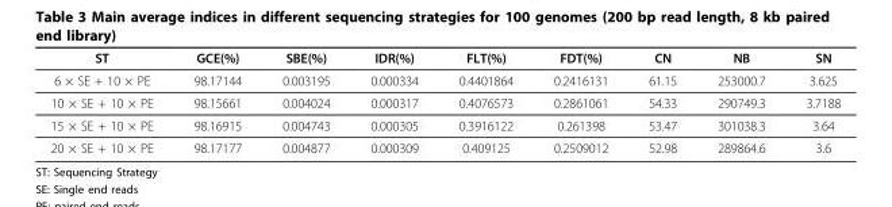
<table><thead><tr><td>ST</td><td>GCE(%)</td><td>SBE(%)</td><td>IDR(%)</td><td>FLT(%)</td><td>FDT(%)</td><td>CN</td><td>NB</td><td>SN</td></tr></thead><tbody><tr><td>6 × SE + 10 × PE</td><td>98.17144</td><td>0.003195</td><td>0.000334</td><td>0.4401864</td><td>0.2416131</td><td>61.15</td><td>253000.7</td><td>3.625</td></tr><tr><td>10 × SE + 10 × PE</td><td>98.15661</td><td>0.004024</td><td>0.000317</td><td>0.4076573</td><td>0.2861061</td><td>54.33</td><td>290749.3</td><td>3.7188</td></tr><tr><td>15 × SE + 10 × PE</td><td>98.16915</td><td>0.004743</td><td>0.000305</td><td>0.3916122</td><td>0.261398</td><td>53.47</td><td>301038.3</td><td>3.64</td></tr><tr><td>20 × SE + 10 × PE</td><td>98.17177</td><td>0.004877</td><td>0.000309</td><td>0.409125</td><td>0.2509012</td><td>52.98</td><td>289864.6</td><td>3.6</td></tr></tbody></table>